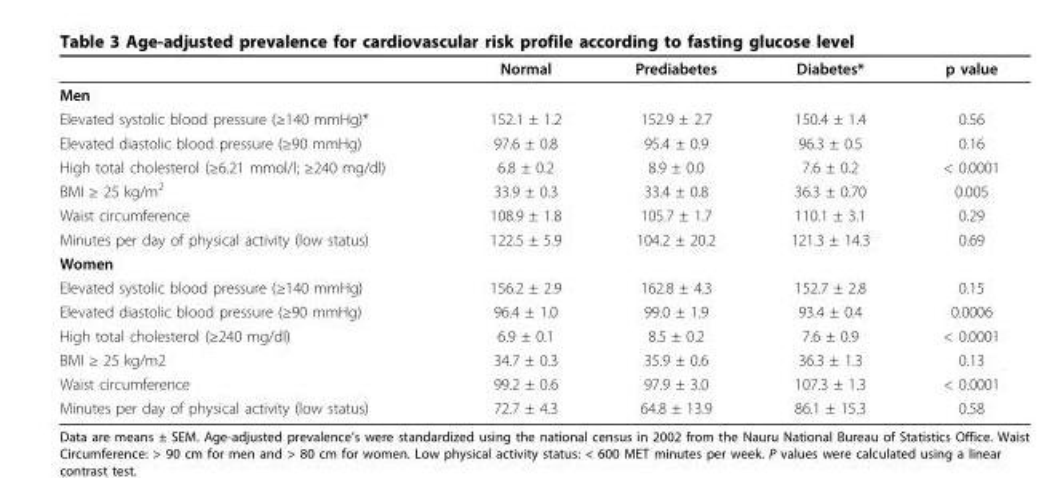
<table><thead><tr><td></td><td>Normal</td><td>Prediabetes</td><td>Diabetes*</td><td>p value</td></tr></thead><tbody><tr><td colspan="5">Men</td></tr><tr><td>Elevated systolic blood pressure (≥140 mmHg)*</td><td>152.1 ± 1.2</td><td>152.9 ± 2.7</td><td>150.4 ± 1.4</td><td>0.56</td></tr><tr><td>Elevated diastolic blood pressure (≥90 mmHg)</td><td>97.6 ± 0.8</td><td>95.4 ± 0.9</td><td>96.3 ± 0.5</td><td>0.16</td></tr><tr><td>High total cholesterol (≥6.21 mmol/l; ≥240 mg/dl)</td><td>6.8 ± 0.2</td><td>8.9 ± 0.0</td><td>7.6 ± 0.2</td><td>&lt; 0.0001</td></tr><tr><td>BMI ≥ 25 kg/m<sup>2</sup></td><td>33.9 ± 0.3</td><td>33.4 ± 0.8</td><td>36.3 ± 0.70</td><td>0.005</td></tr><tr><td>Waist circumference</td><td>108.9 ± 1.8</td><td>105.7 ± 1.7</td><td>110.1 ± 3.1</td><td>0.29</td></tr><tr><td>Minutes per day of physical activity (low status)</td><td>122.5 ± 5.9</td><td>104.2 ± 20.2</td><td>121.3 ± 14.3</td><td>0.69</td></tr><tr><td colspan="5">Women</td></tr><tr><td>Elevated systolic blood pressure (≥140 mmHg)</td><td>156.2 ± 2.9</td><td>162.8 ± 4.3</td><td>152.7 ± 2.8</td><td>0.15</td></tr><tr><td>Elevated diastolic blood pressure (≥90 mmHg)</td><td>96.4 ± 1.0</td><td>99.0 ± 1.9</td><td>93.4 ± 0.4</td><td>0.0006</td></tr><tr><td>High total cholesterol (≥240 mg/dl)</td><td>6.9 ± 0.1</td><td>8.5 ± 0.2</td><td>7.6 ± 0.9</td><td>&lt; 0.0001</td></tr><tr><td>BMI ≥ 25 kg/m2</td><td>34.7 ± 0.3</td><td>35.9 ± 0.6</td><td>36.3 ± 1.3</td><td>0.13</td></tr><tr><td>Waist circumference</td><td>99.2 ± 0.6</td><td>97.9 ± 3.0</td><td>107.3 ± 1.3</td><td>&lt; 0.0001</td></tr><tr><td>Minutes per day of physical activity (low status)</td><td>72.7 ± 4.3</td><td>64.8 ± 13.9</td><td>86.1 ± 15.3</td><td>0.58</td></tr></tbody></table>